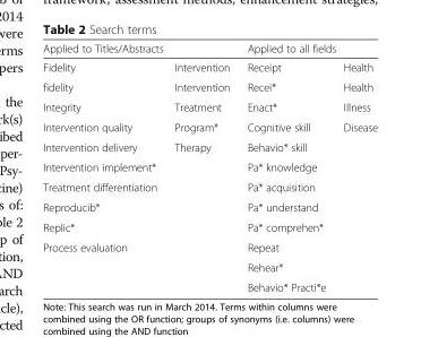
<table><thead><tr><td colspan="2">Applied to Titles/Abstracts</td><td colspan="2">Applied to all fields</td></tr><tr><td>Fidelity</td><td>Intervention</td><td>Receipt</td><td>Health</td></tr></thead><tbody><tr><td>fidelity</td><td>Intervention</td><td>Recei*</td><td>Health</td></tr><tr><td>Integrity</td><td>Treatment</td><td>Enact*</td><td>Illness</td></tr><tr><td>Intervention quality</td><td>Program*</td><td>Cognitive skill</td><td>Disease</td></tr><tr><td>Intervention delivery</td><td>Therapy</td><td>Behavio* skill</td><td></td></tr><tr><td>Intervention implement*</td><td></td><td>Pa* knowledge</td><td></td></tr><tr><td>Treatment differentiation</td><td></td><td>Pa* acquisition</td><td></td></tr><tr><td>Reproducib*</td><td></td><td>Pa* understand</td><td></td></tr><tr><td>Replic*</td><td></td><td>Pa* comprehen*</td><td></td></tr><tr><td rowspan="3">Process evaluation</td><td></td><td>Repeat</td><td></td></tr><tr><td></td><td>Rehear*</td><td></td></tr><tr><td></td><td>Behavio* Practi*e</td><td></td></tr></tbody></table>